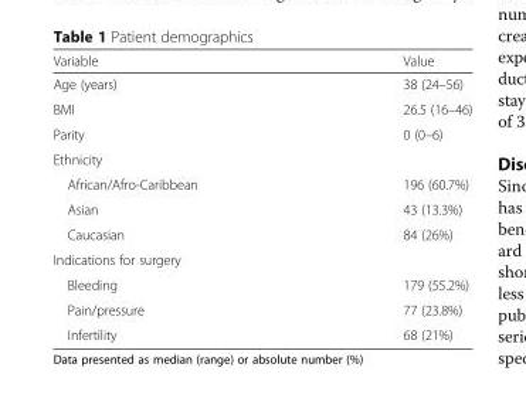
<table><thead><tr><td>Variable</td><td>Value</td></tr></thead><tbody><tr><td>Age (years)</td><td>38 (24–56)</td></tr><tr><td>BMI</td><td>26.5 (16–46)</td></tr><tr><td>Parity</td><td>0 (0–6)</td></tr><tr><td colspan="2">Ethnicity</td></tr><tr><td>African/Afro-Caribbean</td><td>196 (60.7%)</td></tr><tr><td>Asian</td><td>43 (13.3%)</td></tr><tr><td>Caucasian</td><td>84 (26%)</td></tr><tr><td colspan="2">Indications for surgery</td></tr><tr><td>Bleeding</td><td>179 (55.2%)</td></tr><tr><td>Pain/pressure</td><td>77 (23.8%)</td></tr><tr><td>Infertility</td><td>68 (21%)</td></tr></tbody></table>